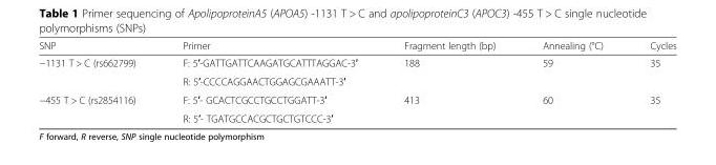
<table><thead><tr><td>SNP</td><td>Primer</td><td>Fragment length (bp)</td><td>Annealing (°C)</td><td>Cycles</td></tr></thead><tbody><tr><td rowspan="2">−1131 T &gt; C (rs662799)</td><td>F: 5′-GATTGATTCAAGATGCATTTAGGAC-3′</td><td rowspan="2">188</td><td rowspan="2">59</td><td rowspan="2">35</td></tr><tr><td>R: 5′-CCCCAGGAACTGGAGCGAAATT-3′</td></tr><tr><td rowspan="2">−455 T &gt; C (rs2854116)</td><td>F: 5′- GCACTCGCCTGCCTGGATT-3′</td><td rowspan="2">413</td><td rowspan="2">60</td><td rowspan="2">35</td></tr><tr><td>R: 5′- TGATGCCACGCTGCTGTCCC-3′</td></tr></tbody></table>